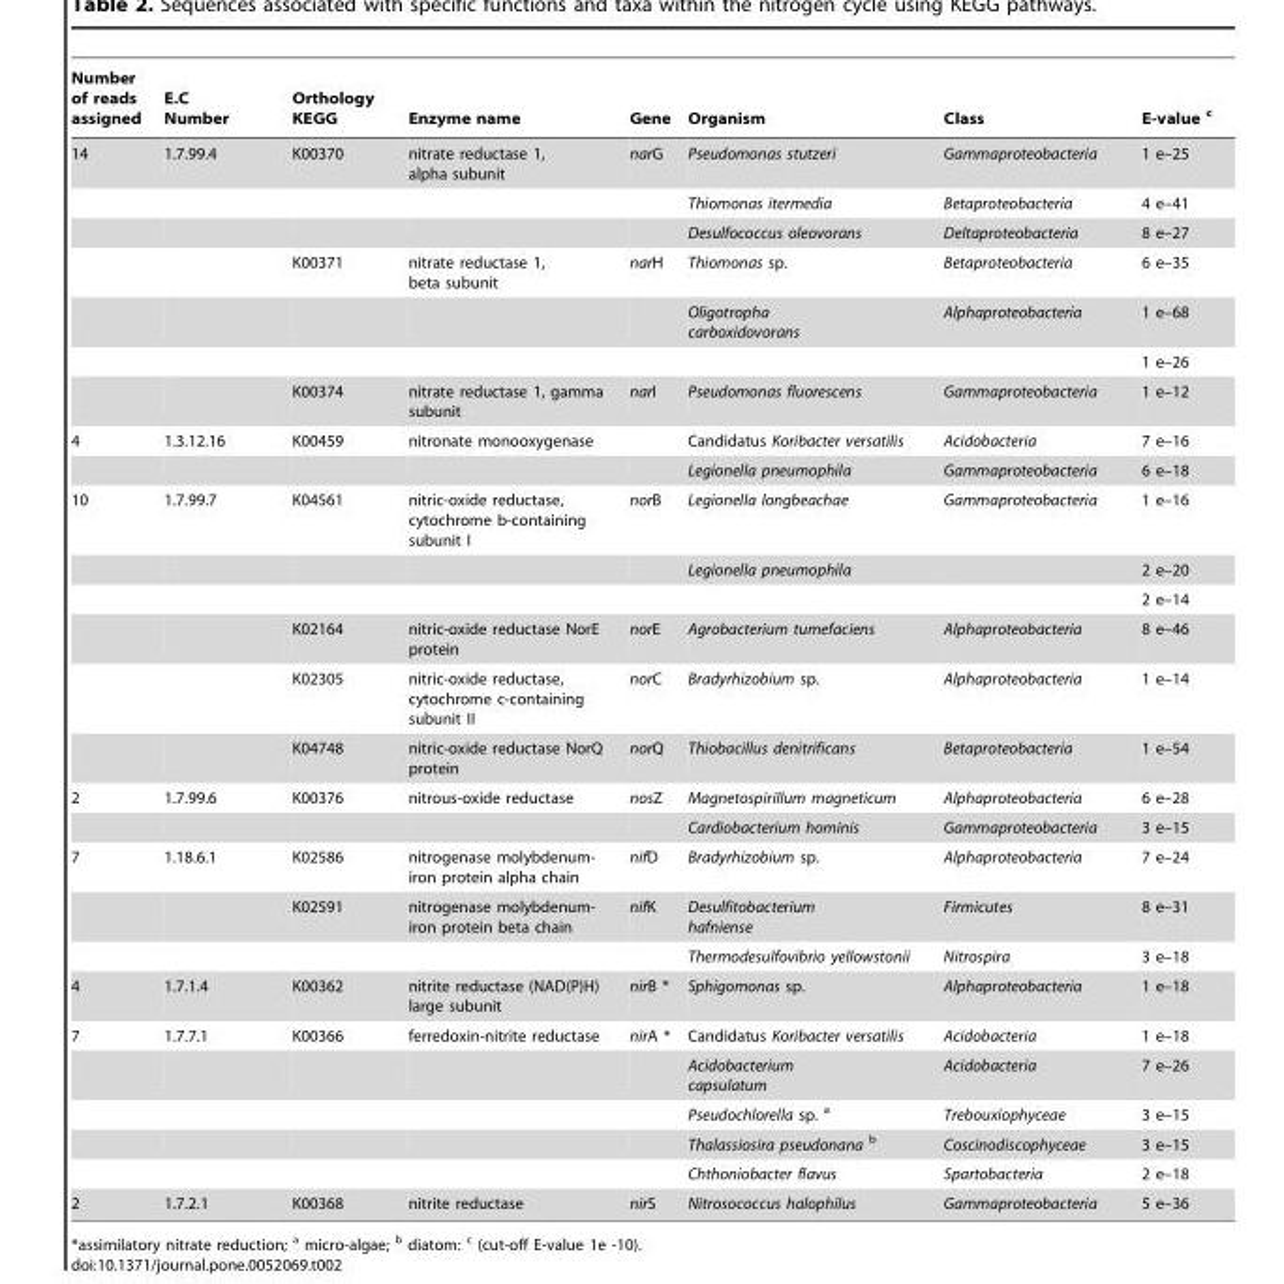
<table><thead><tr><td>Number of reads assigned</td><td>E.C Number</td><td>Orthology KEGG</td><td>Enzyme name</td><td>Gene</td><td>Organism</td><td>Class</td><td>E-value <sup>c</sup></td></tr></thead><tbody><tr><td rowspan="7">14</td><td>1.7.99.4</td><td>K00370</td><td>nitrate reductase 1, alpha subunit</td><td>narG</td><td>Pseudomonas stutzeri</td><td>Gammaproteobacteria</td><td>1 e–25</td></tr><tr><td></td><td></td><td></td><td></td><td>Thiomonas itermedia</td><td>Betaproteobacteria</td><td>4 e–41</td></tr><tr><td></td><td></td><td></td><td></td><td>Desulfococcus oleovorans</td><td>Deltaproteobacteria</td><td>8 e–27</td></tr><tr><td></td><td>K00371</td><td>nitrate reductase 1, beta subunit</td><td>narH</td><td>Thiomonas sp.</td><td>Betaproteobacteria</td><td>6 e–35</td></tr><tr><td></td><td></td><td></td><td></td><td>Oligotropha carboxidovorans</td><td>Alphaproteobacteria</td><td>1 e–68</td></tr><tr><td></td><td></td><td></td><td></td><td></td><td></td><td>1 e–26</td></tr><tr><td></td><td>K00374</td><td>nitrate reductase 1, gamma subunit</td><td>narI</td><td>Pseudomonas fluorescens</td><td>Gammaproteobacteria</td><td>1 e–12</td></tr><tr><td rowspan="2">4</td><td>1.3.12.16</td><td>K00459</td><td>nitronate monooxygenase</td><td></td><td>Candidatus Koribacter versatilis</td><td>Acidobacteria</td><td>7 e–16</td></tr><tr><td></td><td></td><td></td><td></td><td>Legionella pneumophila</td><td>Gammaproteobacteria</td><td>6 e–18</td></tr><tr><td rowspan="6">10</td><td>1.7.99.7</td><td>K04561</td><td>nitric-oxide reductase, cytochrome b-containing subunit I</td><td>norB</td><td>Legionella longbeachae</td><td>Gammaproteobacteria</td><td>1 e–16</td></tr><tr><td></td><td></td><td></td><td></td><td>Legionella pneumophila</td><td></td><td>2 e–20</td></tr><tr><td></td><td></td><td></td><td></td><td></td><td></td><td>2 e–14</td></tr><tr><td></td><td>K02164</td><td>nitric-oxide reductase NorE protein</td><td>norE</td><td>Agrobacterium tumefaciens</td><td>Alphaproteobacteria</td><td>8 e–46</td></tr><tr><td></td><td>K02305</td><td>nitric-oxide reductase, cytochrome c-containing subunit II</td><td>norC</td><td>Bradyrhizobium sp.</td><td>Alphaproteobacteria</td><td>1 e–14</td></tr><tr><td></td><td>K04748</td><td>nitric-oxide reductase NorQ protein</td><td>norQ</td><td>Thiobacillus denitrificans</td><td>Betaproteobacteria</td><td>1 e–54</td></tr><tr><td rowspan="2">2</td><td>1.7.99.6</td><td>K00376</td><td>nitrous-oxide reductase</td><td>nosZ</td><td>Magnetospirillum magneticum</td><td>Alphaproteobacteria</td><td>6 e–28</td></tr><tr><td></td><td></td><td></td><td></td><td>Cardiobacterium hominis</td><td>Gammaproteobacteria</td><td>3 e–15</td></tr><tr><td rowspan="3">7</td><td>1.18.6.1</td><td>K02586</td><td>nitrogenase molybdenum- iron protein alpha chain</td><td>nifD</td><td>Bradyrhizobium sp.</td><td>Alphaproteobacteria</td><td>7 e–24</td></tr><tr><td></td><td>K02591</td><td>nitrogenase molybdenum- iron protein beta chain</td><td>nifK</td><td>Desulfitobacterium hafniense</td><td>Firmicutes</td><td>8 e–31</td></tr><tr><td></td><td></td><td></td><td></td><td>Thermodesulfovibrio yellowstonii</td><td>Nitrospira</td><td>3 e–18</td></tr><tr><td>4</td><td>1.7.1.4</td><td>K00362</td><td>nitrite reductase (NAD(P)H) large subunit</td><td>nirB *</td><td>Sphigomonas sp.</td><td>Alphaproteobacteria</td><td>1 e–18</td></tr><tr><td rowspan="5">7</td><td>1.7.7.1</td><td>K00366</td><td>ferredoxin-nitrite reductase</td><td>nirA *</td><td>Candidatus Koribacter versatilis</td><td>Acidobacteria</td><td>1 e–18</td></tr><tr><td></td><td></td><td></td><td></td><td>Acidobacterium capsulatum</td><td>Acidobacteria</td><td>7 e–26</td></tr><tr><td></td><td></td><td></td><td></td><td>Pseudochlorella sp. <sup>a</sup></td><td>Trebouxiophyceae</td><td>3 e–15</td></tr><tr><td></td><td></td><td></td><td></td><td>Thalassiosira pseudonana <sup>b</sup></td><td>Coscinodiscophyceae</td><td>3 e–15</td></tr><tr><td></td><td></td><td></td><td></td><td>Chthoniobacter flavus</td><td>Spartobacteria</td><td>2 e–18</td></tr><tr><td>2</td><td>1.7.2.1</td><td>K00368</td><td>nitrite reductase</td><td>nirS</td><td>Nitrosococcus halophilus</td><td>Gammaproteobacteria</td><td>5 e–36</td></tr></tbody></table>